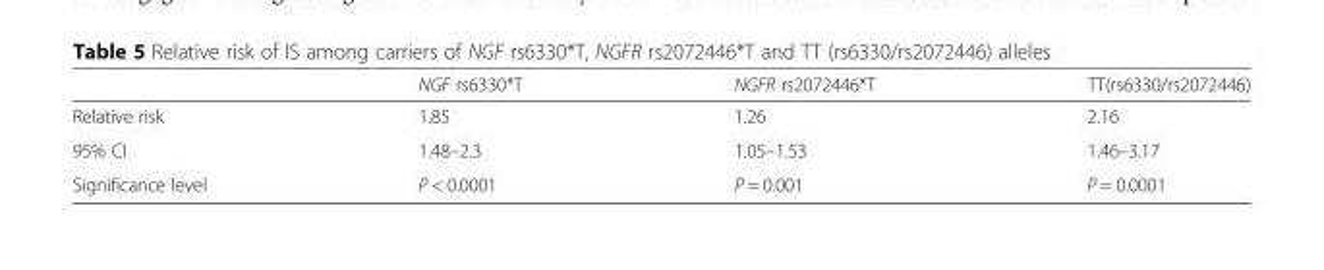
<table><thead><tr><td></td><td>NGF rs6330*T</td><td>NGFR rs2072446*T</td><td>TT(rs6330/rs2072446)</td></tr></thead><tbody><tr><td>Relative risk</td><td>1.85</td><td>1.26</td><td>2.16</td></tr><tr><td>95% CI</td><td>1.48–2.3</td><td>1.05–1.53</td><td>1.46–3.17</td></tr><tr><td>Significance level</td><td>P &lt; 0.0001</td><td>P = 0.001</td><td>P = 0.0001</td></tr></tbody></table>